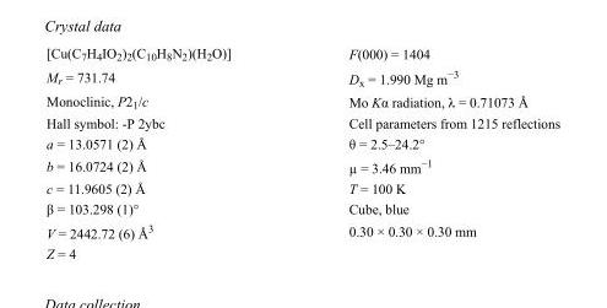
<table><tbody><tr><td>[Cu(C<sub>7</sub>H<sub>4</sub>IO<sub>2</sub>)<sub>2</sub>(C<sub>10</sub>H<sub>8</sub>N<sub>2</sub>)(H<sub>2</sub>O)]</td><td>F(000) = 1404</td></tr><tr><td>M<sub>r</sub> = 731.74</td><td>D<sub>x</sub> = 1.990 Mg m<sup>−3</sup></td></tr><tr><td>Monoclinic, P2<sub>1</sub>/c</td><td>Mo Kα radiation, λ = 0.71073 Å</td></tr><tr><td>Hall symbol: -P 2ybc</td><td>Cell parameters from 1215 reflections</td></tr><tr><td>a = 13.0571 (2) Å</td><td>θ = 2.5–24.2°</td></tr><tr><td>b = 16.0724 (2) Å</td><td>µ = 3.46 mm<sup>−1</sup></td></tr><tr><td>c = 11.9605 (2) Å</td><td>T = 100 K</td></tr><tr><td>β = 103.298 (1)°</td><td>Cube, blue</td></tr><tr><td>V = 2442.72 (6) Å<sup>3</sup></td><td>0.30 × 0.30 × 0.30 mm</td></tr><tr><td>Z = 4</td><td></td></tr></tbody></table>